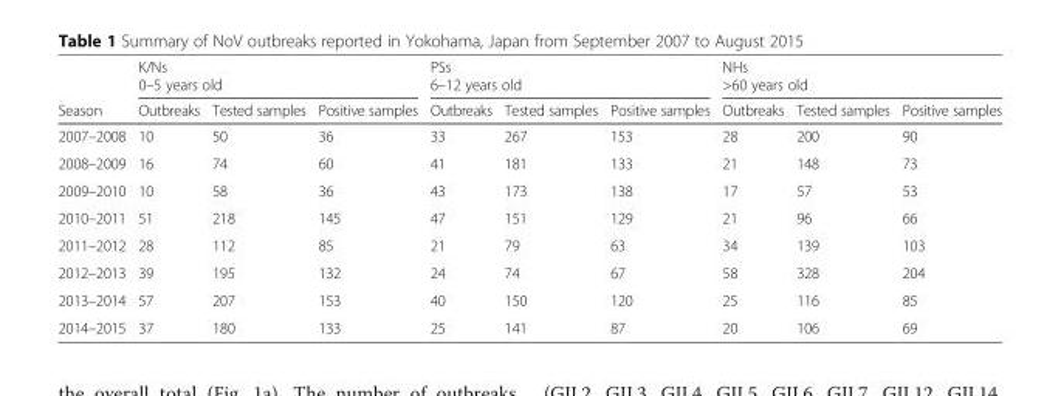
<table><thead><tr><td rowspan="3">Season</td><td rowspan="2" colspan="3">K/Ns 0–5 years old</td><td rowspan="2" colspan="3">PSs 6–12 years old</td><td rowspan="2" colspan="3">NHs &gt;60 years old</td></tr><tr></tr><tr><td>Outbreaks</td><td>Tested samples</td><td>Positive samples</td><td>Outbreaks</td><td>Tested samples</td><td>Positive samples</td><td>Outbreaks</td><td>Tested samples</td><td>Positive samples</td></tr></thead><tbody><tr><td>2007–2008</td><td>10</td><td>50</td><td>36</td><td>33</td><td>267</td><td>153</td><td>28</td><td>200</td><td>90</td></tr><tr><td>2008–2009</td><td>16</td><td>74</td><td>60</td><td>41</td><td>181</td><td>133</td><td>21</td><td>148</td><td>73</td></tr><tr><td>2009–2010</td><td>10</td><td>58</td><td>36</td><td>43</td><td>173</td><td>138</td><td>17</td><td>57</td><td>53</td></tr><tr><td>2010–2011</td><td>51</td><td>218</td><td>145</td><td>47</td><td>151</td><td>129</td><td>21</td><td>96</td><td>66</td></tr><tr><td>2011–2012</td><td>28</td><td>112</td><td>85</td><td>21</td><td>79</td><td>63</td><td>34</td><td>139</td><td>103</td></tr><tr><td>2012–2013</td><td>39</td><td>195</td><td>132</td><td>24</td><td>74</td><td>67</td><td>58</td><td>328</td><td>204</td></tr><tr><td>2013–2014</td><td>57</td><td>207</td><td>153</td><td>40</td><td>150</td><td>120</td><td>25</td><td>116</td><td>85</td></tr><tr><td>2014–2015</td><td>37</td><td>180</td><td>133</td><td>25</td><td>141</td><td>87</td><td>20</td><td>106</td><td>69</td></tr></tbody></table>